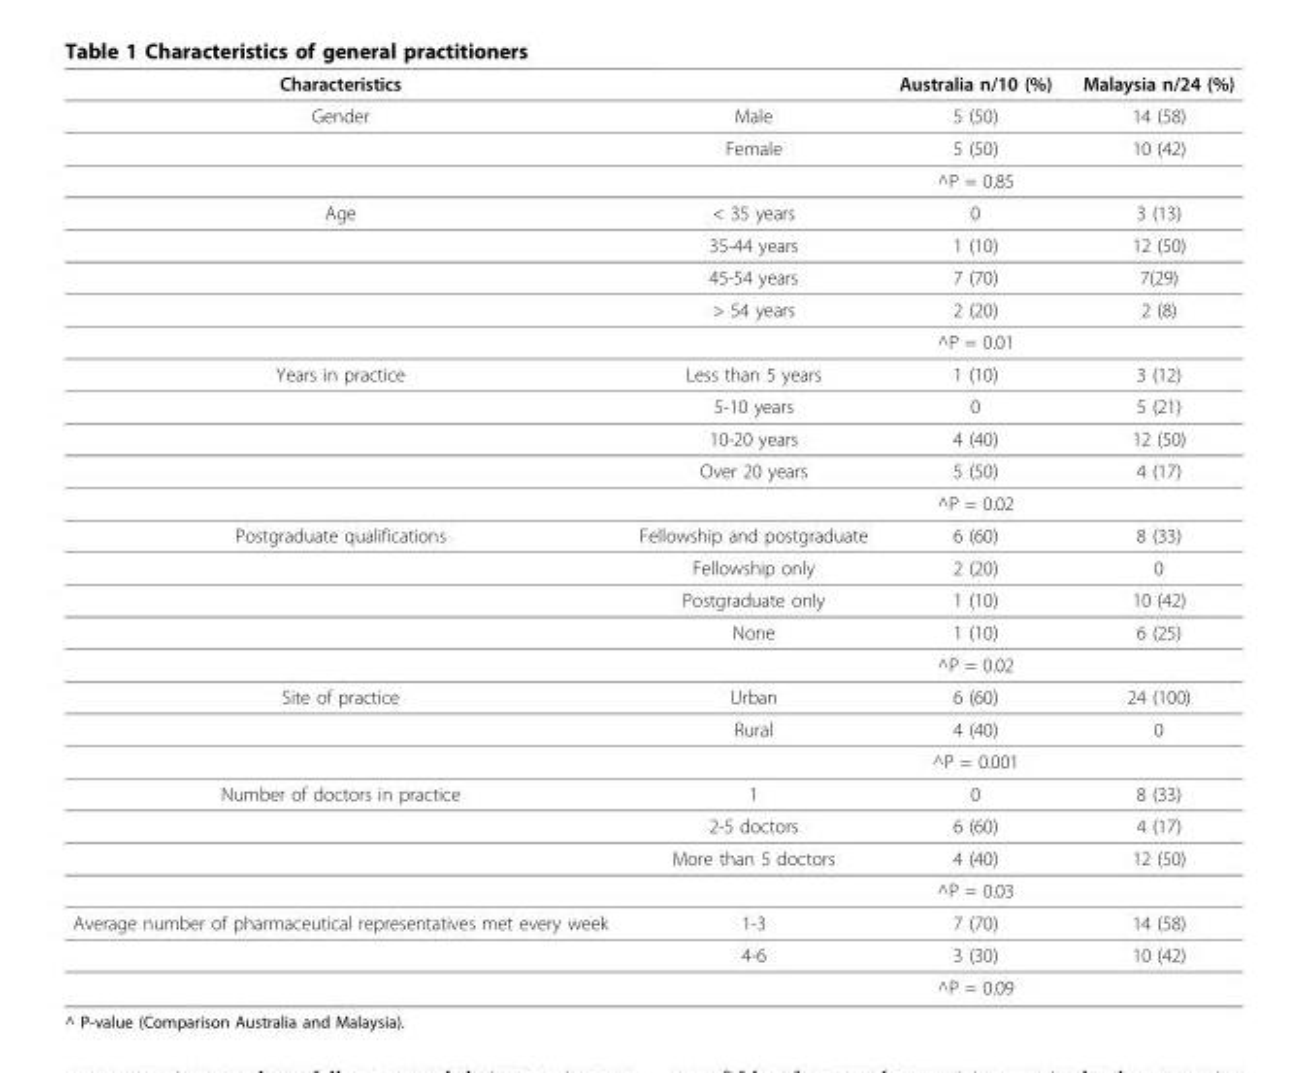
<table><thead><tr><td>Characteristics</td><td></td><td>Australia n/10 (%)</td><td>Malaysia n/24 (%)</td></tr></thead><tbody><tr><td rowspan="3">Gender</td><td>Male</td><td>5 (50)</td><td>14 (58)</td></tr><tr><td>Female</td><td>5 (50)</td><td>10 (42)</td></tr><tr><td></td><td>^P = 0.85</td><td></td></tr><tr><td rowspan="5">Age</td><td>&lt; 35 years</td><td>0</td><td>3 (13)</td></tr><tr><td>35-44 years</td><td>1 (10)</td><td>12 (50)</td></tr><tr><td>45-54 years</td><td>7 (70)</td><td>7(29)</td></tr><tr><td>&gt; 54 years</td><td>2 (20)</td><td>2 (8)</td></tr><tr><td></td><td>^P = 0.01</td><td></td></tr><tr><td rowspan="5">Years in practice</td><td>Less than 5 years</td><td>1 (10)</td><td>3 (12)</td></tr><tr><td>5-10 years</td><td>0</td><td>5 (21)</td></tr><tr><td>10-20 years</td><td>4 (40)</td><td>12 (50)</td></tr><tr><td>Over 20 years</td><td>5 (50)</td><td>4 (17)</td></tr><tr><td></td><td>^P = 0.02</td><td></td></tr><tr><td rowspan="5">Postgraduate qualifications</td><td>Fellowship and postgraduate</td><td>6 (60)</td><td>8 (33)</td></tr><tr><td>Fellowship only</td><td>2 (20)</td><td>0</td></tr><tr><td>Postgraduate only</td><td>1 (10)</td><td>10 (42)</td></tr><tr><td>None</td><td>1 (10)</td><td>6 (25)</td></tr><tr><td></td><td>^P = 0.02</td><td></td></tr><tr><td rowspan="3">Site of practice</td><td>Urban</td><td>6 (60)</td><td>24 (100)</td></tr><tr><td>Rural</td><td>4 (40)</td><td>0</td></tr><tr><td></td><td>^P = 0.001</td><td></td></tr><tr><td rowspan="4">Number of doctors in practice</td><td>1</td><td>0</td><td>8 (33)</td></tr><tr><td>2-5 doctors</td><td>6 (60)</td><td>4 (17)</td></tr><tr><td>More than 5 doctors</td><td>4 (40)</td><td>12 (50)</td></tr><tr><td></td><td>^P = 0.03</td><td></td></tr><tr><td rowspan="3">Average number of pharmaceutical representatives met every week</td><td>1-3</td><td>7 (70)</td><td>14 (58)</td></tr><tr><td>4-6</td><td>3 (30)</td><td>10 (42)</td></tr><tr><td></td><td>^P = 0.09</td><td></td></tr></tbody></table>